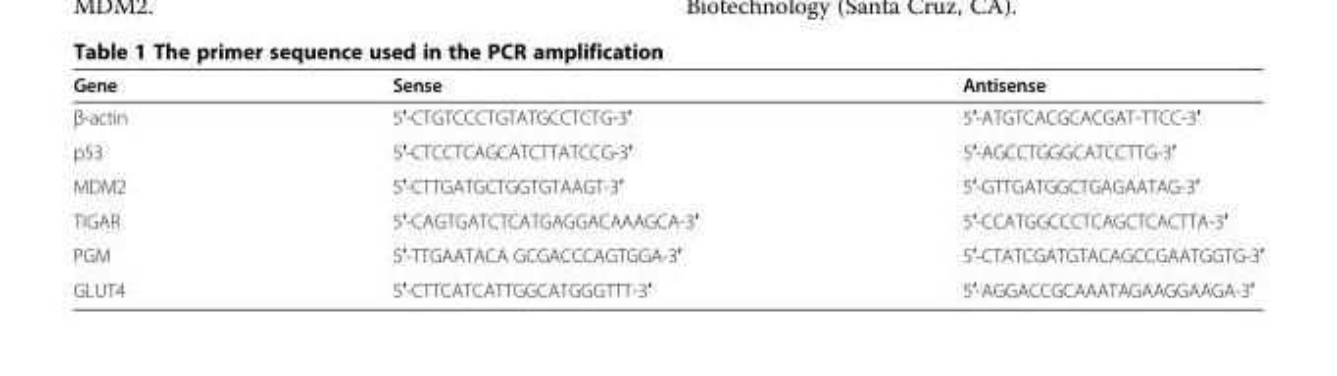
<table><thead><tr><td>Gene</td><td>Sense</td><td>Antisense</td></tr></thead><tbody><tr><td>β-actin</td><td>5′-CTGTCCCTGTATGCCTCTG-3′</td><td>5′-ATGTCACGCACGAT-TTCC-3′</td></tr><tr><td>p53</td><td>5′-CTCCTCAGCATCTTATCCG-3′</td><td>5′-AGCCTGGGCATCCTTG-3′</td></tr><tr><td>MDM2</td><td>5′-CTTGATGCTGGTGTAAGT-3′</td><td>5′-GTTGATGGCTGAGAATAG-3′</td></tr><tr><td>TIGAR</td><td>5′-CAGTGATCTCATGAGGACAAAGCA-3′</td><td>5′-CCATGGCCCTCAGCTCACTTA-3′</td></tr><tr><td>PGM</td><td>5′-TTGAATACA GCGACCCAGTGGA-3′</td><td>5′-CTATCGATGTACAGCCGAATGGTG-3′</td></tr><tr><td>GLUT4</td><td>5′-CTTCATCATTGGCATGGGTTT-3′</td><td>5′-AGGACCGCAAATAGAAGGAAGA-3′</td></tr></tbody></table>